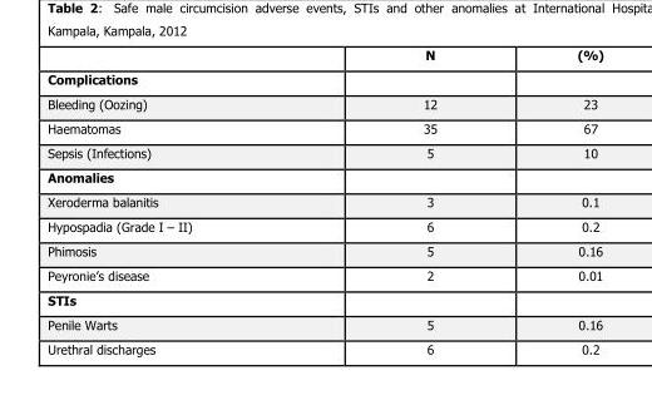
<table><thead><tr><td></td><td>N</td><td>(%)</td></tr></thead><tbody><tr><td colspan="3">Complications</td></tr><tr><td>Bleeding (Oozing)</td><td>12</td><td>23</td></tr><tr><td>Haematomas</td><td>35</td><td>67</td></tr><tr><td>Sepsis (Infections)</td><td>5</td><td>10</td></tr><tr><td colspan="3">Anomalies</td></tr><tr><td>Xeroderma balanitis</td><td>3</td><td>0.1</td></tr><tr><td>Hypospadia (Grade I – II)</td><td>6</td><td>0.2</td></tr><tr><td>Phimosis</td><td>5</td><td>0.16</td></tr><tr><td>Peyronie’s disease</td><td>2</td><td>0.01</td></tr><tr><td colspan="3">STIs</td></tr><tr><td>Penile Warts</td><td>5</td><td>0.16</td></tr><tr><td>Urethral discharges</td><td>6</td><td>0.2</td></tr></tbody></table>